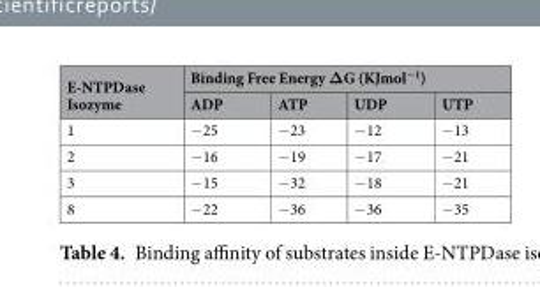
<table><thead><tr><td rowspan="2">E-NTPDase Isozyme</td><td colspan="4">Binding Free Energy ΔG (KJmol<sup>−1</sup>)</td></tr><tr><td>ADP</td><td>ATP</td><td>UDP</td><td>UTP</td></tr></thead><tbody><tr><td>1</td><td>−25</td><td>−23</td><td>−12</td><td>−13</td></tr><tr><td>2</td><td>−16</td><td>−19</td><td>−17</td><td>−21</td></tr><tr><td>3</td><td>−15</td><td>−32</td><td>−18</td><td>−21</td></tr><tr><td>8</td><td>−22</td><td>−36</td><td>−36</td><td>−35</td></tr></tbody></table>